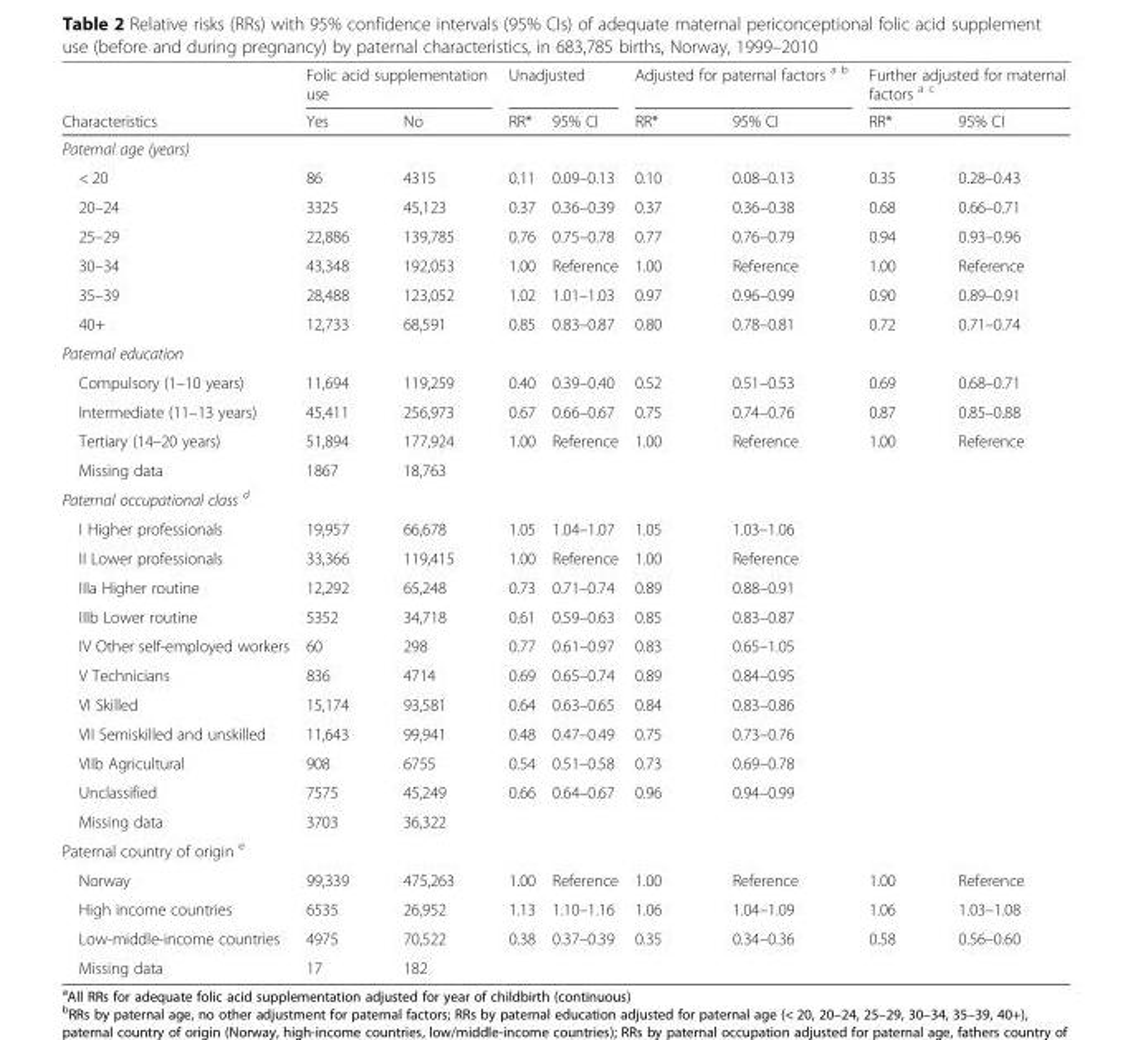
<table><thead><tr><td rowspan="2">Characteristics</td><td colspan="2">Folic acid supplementation use</td><td colspan="2">Unadjusted</td><td colspan="2">Adjusted for paternal factors <sup>a b</sup></td><td colspan="2">Further adjusted for maternal factors <sup>a c</sup></td></tr><tr><td>Yes</td><td>No</td><td>RR*</td><td>95% CI</td><td>RR*</td><td>95% CI</td><td>RR*</td><td>95% CI</td></tr></thead><tbody><tr><td colspan="9">Paternal age (years)</td></tr><tr><td>&lt; 20</td><td>86</td><td>4315</td><td>0.11</td><td>0.09–0.13</td><td>0.10</td><td>0.08–0.13</td><td>0.35</td><td>0.28–0.43</td></tr><tr><td>20–24</td><td>3325</td><td>45,123</td><td>0.37</td><td>0.36–0.39</td><td>0.37</td><td>0.36–0.38</td><td>0.68</td><td>0.66–0.71</td></tr><tr><td>25–29</td><td>22,886</td><td>139,785</td><td>0.76</td><td>0.75–0.78</td><td>0.77</td><td>0.76–0.79</td><td>0.94</td><td>0.93–0.96</td></tr><tr><td>30–34</td><td>43,348</td><td>192,053</td><td>1.00</td><td>Reference</td><td>1.00</td><td>Reference</td><td>1.00</td><td>Reference</td></tr><tr><td>35–39</td><td>28,488</td><td>123,052</td><td>1.02</td><td>1.01–1.03</td><td>0.97</td><td>0.96–0.99</td><td>0.90</td><td>0.89–0.91</td></tr><tr><td>40+</td><td>12,733</td><td>68,591</td><td>0.85</td><td>0.83–0.87</td><td>0.80</td><td>0.78–0.81</td><td>0.72</td><td>0.71–0.74</td></tr><tr><td colspan="9">Paternal education</td></tr><tr><td>Compulsory (1–10 years)</td><td>11,694</td><td>119,259</td><td>0.40</td><td>0.39–0.40</td><td>0.52</td><td>0.51–0.53</td><td>0.69</td><td>0.68–0.71</td></tr><tr><td>Intermediate (11–13 years)</td><td>45,411</td><td>256,973</td><td>0.67</td><td>0.66–0.67</td><td>0.75</td><td>0.74–0.76</td><td>0.87</td><td>0.85–0.88</td></tr><tr><td>Tertiary (14–20 years)</td><td>51,894</td><td>177,924</td><td>1.00</td><td>Reference</td><td>1.00</td><td>Reference</td><td>1.00</td><td>Reference</td></tr><tr><td>Missing data</td><td>1867</td><td>18,763</td><td></td><td></td><td></td><td></td><td></td><td></td></tr><tr><td colspan="9">Paternal occupational class <sup>d</sup></td></tr><tr><td>I Higher professionals</td><td>19,957</td><td>66,678</td><td>1.05</td><td>1.04–1.07</td><td>1.05</td><td>1.03–1.06</td><td></td><td></td></tr><tr><td>II Lower professionals</td><td>33,366</td><td>119,415</td><td>1.00</td><td>Reference</td><td>1.00</td><td>Reference</td><td></td><td></td></tr><tr><td>IIIa Higher routine</td><td>12,292</td><td>65,248</td><td>0.73</td><td>0.71–0.74</td><td>0.89</td><td>0.88–0.91</td><td></td><td></td></tr><tr><td>IIIb Lower routine</td><td>5352</td><td>34,718</td><td>0.61</td><td>0.59–0.63</td><td>0.85</td><td>0.83–0.87</td><td></td><td></td></tr><tr><td>IV Other self-employed workers</td><td>60</td><td>298</td><td>0.77</td><td>0.61–0.97</td><td>0.83</td><td>0.65–1.05</td><td></td><td></td></tr><tr><td>V Technicians</td><td>836</td><td>4714</td><td>0.69</td><td>0.65–0.74</td><td>0.89</td><td>0.84–0.95</td><td></td><td></td></tr><tr><td>VI Skilled</td><td>15,174</td><td>93,581</td><td>0.64</td><td>0.63–0.65</td><td>0.84</td><td>0.83–0.86</td><td></td><td></td></tr><tr><td>VII Semiskilled and unskilled</td><td>11,643</td><td>99,941</td><td>0.48</td><td>0.47–0.49</td><td>0.75</td><td>0.73–0.76</td><td></td><td></td></tr><tr><td>VIIb Agricultural</td><td>908</td><td>6755</td><td>0.54</td><td>0.51–0.58</td><td>0.73</td><td>0.69–0.78</td><td></td><td></td></tr><tr><td>Unclassified</td><td>7575</td><td>45,249</td><td>0.66</td><td>0.64–0.67</td><td>0.96</td><td>0.94–0.99</td><td></td><td></td></tr><tr><td>Missing data</td><td>3703</td><td>36,322</td><td></td><td></td><td></td><td></td><td></td><td></td></tr><tr><td colspan="9">Paternal country of origin <sup>e</sup></td></tr><tr><td>Norway</td><td>99,339</td><td>475,263</td><td>1.00</td><td>Reference</td><td>1.00</td><td>Reference</td><td>1.00</td><td>Reference</td></tr><tr><td>High income countries</td><td>6535</td><td>26,952</td><td>1.13</td><td>1.10–1.16</td><td>1.06</td><td>1.04–1.09</td><td>1.06</td><td>1.03–1.08</td></tr><tr><td>Low-middle-income countries</td><td>4975</td><td>70,522</td><td>0.38</td><td>0.37–0.39</td><td>0.35</td><td>0.34–0.36</td><td>0.58</td><td>0.56–0.60</td></tr><tr><td>Missing data</td><td>17</td><td>182</td><td></td><td></td><td></td><td></td><td></td><td></td></tr></tbody></table>